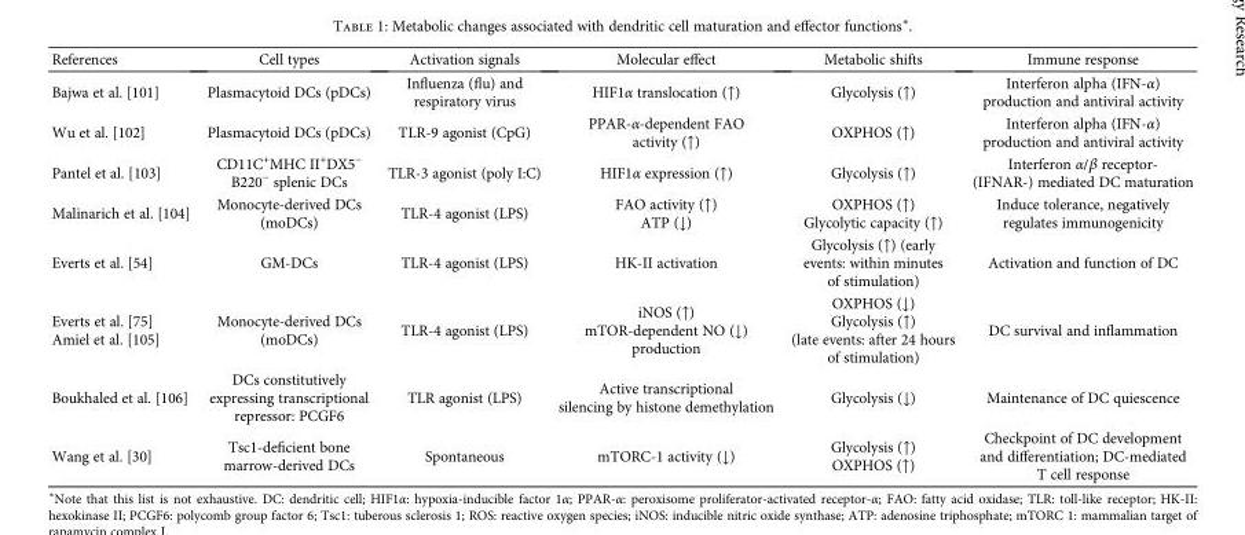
<table><thead><tr><td>References</td><td>Cell types</td><td>Activation signals</td><td>Molecular effect</td><td>Metabolic shifts</td><td>Immune response</td></tr></thead><tbody><tr><td>Bajwa et al. [101]</td><td>Plasmacytoid DCs (pDCs)</td><td>Influenza (flu) and respiratory virus</td><td>HIF1α translocation (↑)</td><td>Glycolysis (↑)</td><td>Interferon alpha (IFN-α) production and antiviral activity</td></tr><tr><td>Wu et al. [102]</td><td>Plasmacytoid DCs (pDCs)</td><td>TLR-9 agonist (CpG)</td><td>PPAR-α-dependent FAO activity (↑)</td><td>OXPHOS (↑)</td><td>Interferon alpha (IFN-α) production and antiviral activity</td></tr><tr><td>Pantel et al. [103]</td><td>CD11C<sup>+</sup>MHC II<sup>+</sup>DX5<sup>−</sup> B220<sup>−</sup> splenic DCs</td><td>TLR-3 agonist (poly I:C)</td><td>HIF1α expression (↑)</td><td>Glycolysis (↑)</td><td>Interferon α/β receptor- (IFNAR-) mediated DC maturation</td></tr><tr><td>Malinarich et al. [104]</td><td>Monocyte-derived DCs (moDCs)</td><td>TLR-4 agonist (LPS)</td><td>FAO activity (↑) ATP (↓)</td><td>OXPHOS (↑) Glycolytic capacity (↑)</td><td>Induce tolerance, negatively regulates immunogenicity</td></tr><tr><td>Everts et al. [54]</td><td>GM-DCs</td><td>TLR-4 agonist (LPS)</td><td>HK-II activation</td><td>Glycolysis (↑) (early events: within minutes of stimulation)</td><td>Activation and function of DC</td></tr><tr><td>Everts et al. [75] Amiel et al. [105]</td><td>Monocyte-derived DCs (moDCs)</td><td>TLR-4 agonist (LPS)</td><td>iNOS (↑) mTOR-dependent NO (↓) production</td><td>OXPHOS (↓) Glycolysis (↑) (late events: after 24 hours of stimulation)</td><td>DC survival and inflammation</td></tr><tr><td>Boukhaled et al. [106]</td><td>DCs constitutively expressing transcriptional repressor: PCGF6</td><td>TLR agonist (LPS)</td><td>Active transcriptional silencing by histone demethylation</td><td>Glycolysis (↓)</td><td>Maintenance of DC quiescence</td></tr><tr><td>Wang et al. [30]</td><td>Tsc1-deficient bone marrow-derived DCs</td><td>Spontaneous</td><td>mTORC-1 activity (↓)</td><td>Glycolysis (↑) OXPHOS (↑)</td><td>Checkpoint of DC development and differentiation; DC-mediated T cell response</td></tr></tbody></table>